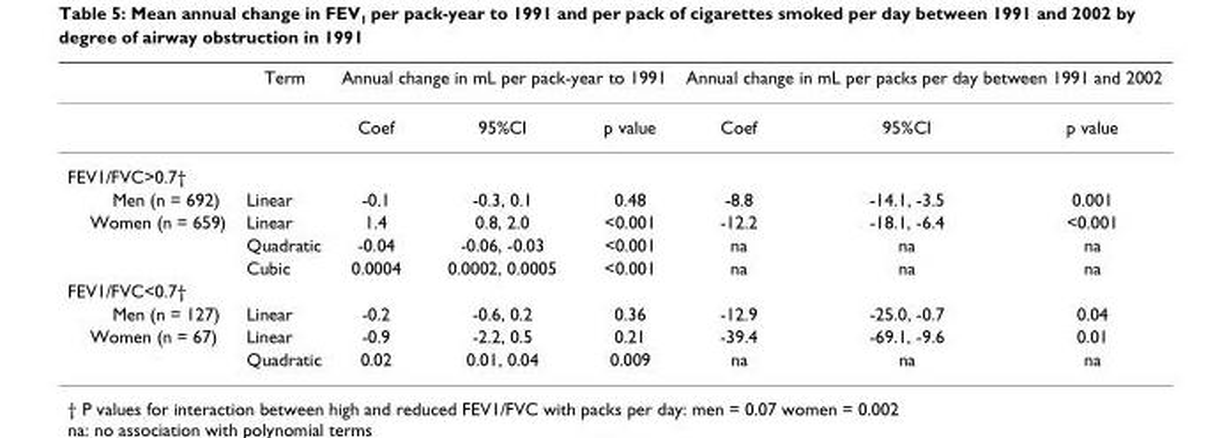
<table><thead><tr><td rowspan="2"></td><td rowspan="2">Term</td><td colspan="3">Annual change in mL per pack-year to 1991</td><td colspan="3">Annual change in mL per packs per day between 1991 and 2002</td></tr><tr><td>Coef</td><td>95%CI</td><td>p value</td><td>Coef</td><td>95%CI</td><td>p value</td></tr></thead><tbody><tr><td colspan="8">FEV1/FVC&gt;0.7†</td></tr><tr><td>Men (n = 692)</td><td>Linear</td><td>-0.1</td><td>-0.3, 0.1</td><td>0.48</td><td>-8.8</td><td>-14.1, -3.5</td><td>0.001</td></tr><tr><td rowspan="3">Women (n = 659)</td><td>Linear</td><td>1.4</td><td>0.8, 2.0</td><td>&lt;0.001</td><td>-12.2</td><td>-18.1, -6.4</td><td>&lt;0.001</td></tr><tr><td>Quadratic</td><td>-0.04</td><td>-0.06, -0.03</td><td>&lt;0.001</td><td>na</td><td>na</td><td>na</td></tr><tr><td>Cubic</td><td>0.0004</td><td>0.0002, 0.0005</td><td>&lt;0.001</td><td>na</td><td>na</td><td>na</td></tr><tr><td colspan="8">FEV1/FVC&lt;0.7†</td></tr><tr><td>Men (n = 127)</td><td>Linear</td><td>-0.2</td><td>-0.6, 0.2</td><td>0.36</td><td>-12.9</td><td>-25.0, -0.7</td><td>0.04</td></tr><tr><td rowspan="2">Women (n = 67)</td><td>Linear</td><td>-0.9</td><td>-2.2, 0.5</td><td>0.21</td><td>-39.4</td><td>-69.1, -9.6</td><td>0.01</td></tr><tr><td>Quadratic</td><td>0.02</td><td>0.01, 0.04</td><td>0.009</td><td>na</td><td>na</td><td>na</td></tr></tbody></table>